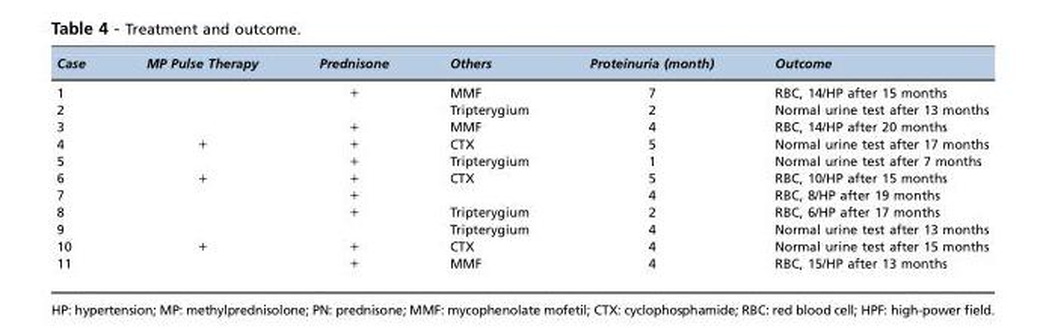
<table><thead><tr><td>Case</td><td>MP Pulse Therapy</td><td>Prednisone</td><td>Others</td><td>Proteinuria (month)</td><td>Outcome</td></tr></thead><tbody><tr><td>1</td><td></td><td>+</td><td>MMF</td><td>7</td><td>RBC, 14/HP after 15 months</td></tr><tr><td>2</td><td></td><td></td><td>Tripterygium</td><td>2</td><td>Normal urine test after 13 months</td></tr><tr><td>3</td><td></td><td>+</td><td>MMF</td><td>4</td><td>RBC, 14/HP after 20 months</td></tr><tr><td>4</td><td>+</td><td>+</td><td>CTX</td><td>5</td><td>Normal urine test after 17 months</td></tr><tr><td>5</td><td></td><td>+</td><td>Tripterygium</td><td>1</td><td>Normal urine test after 7 months</td></tr><tr><td>6</td><td>+</td><td>+</td><td>CTX</td><td>5</td><td>RBC, 10/HP after 15 months</td></tr><tr><td>7</td><td></td><td>+</td><td></td><td>4</td><td>RBC, 8/HP after 19 months</td></tr><tr><td>8</td><td></td><td>+</td><td>Tripterygium</td><td>2</td><td>RBC, 6/HP after 17 months</td></tr><tr><td>9</td><td></td><td></td><td>Tripterygium</td><td>4</td><td>Normal urine test after 13 months</td></tr><tr><td>10</td><td>+</td><td>+</td><td>CTX</td><td>4</td><td>Normal urine test after 15 months</td></tr><tr><td>11</td><td></td><td>+</td><td>MMF</td><td>4</td><td>RBC, 15/HP after 13 months</td></tr></tbody></table>